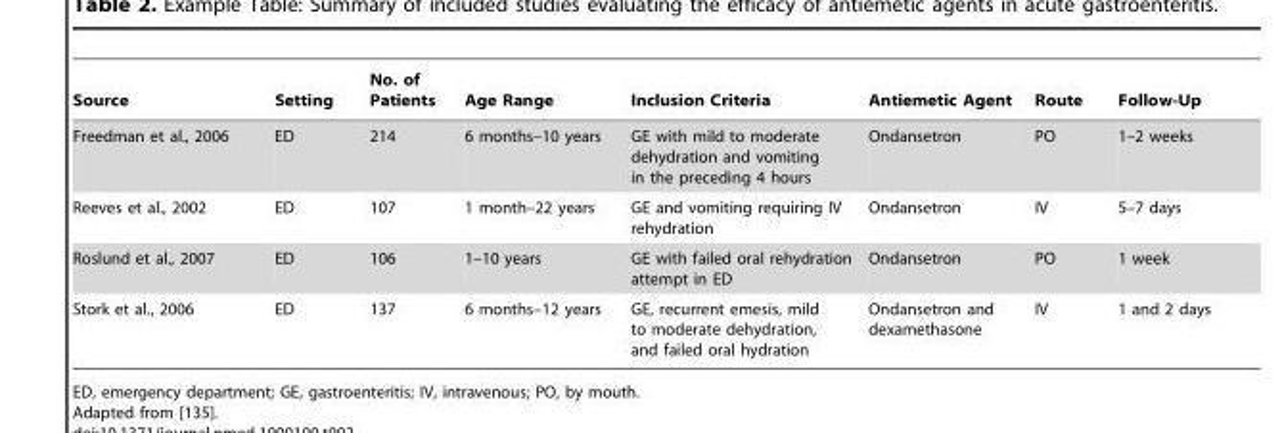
<table><thead><tr><td>Source</td><td>Setting</td><td>No. of Patients</td><td>Age Range</td><td>Inclusion Criteria</td><td>Antiemetic Agent</td><td>Route</td><td>Follow-Up</td></tr></thead><tbody><tr><td>Freedman et al., 2006</td><td>ED</td><td>214</td><td>6 months–10 years</td><td>GE with mild to moderate dehydration and vomiting in the preceding 4 hours</td><td>Ondansetron</td><td>PO</td><td>1–2 weeks</td></tr><tr><td>Reeves et al., 2002</td><td>ED</td><td>107</td><td>1 month–22 years</td><td>GE and vomiting requiring IV rehydration</td><td>Ondansetron</td><td>IV</td><td>5–7 days</td></tr><tr><td>Roslund et al., 2007</td><td>ED</td><td>106</td><td>1–10 years</td><td>GE with failed oral rehydration attempt in ED</td><td>Ondansetron</td><td>PO</td><td>1 week</td></tr><tr><td>Stork et al., 2006</td><td>ED</td><td>137</td><td>6 months–12 years</td><td>GE, recurrent emesis, mild to moderate dehydration, and failed oral hydration</td><td>Ondansetron and dexamethasone</td><td>IV</td><td>1 and 2 days</td></tr></tbody></table>